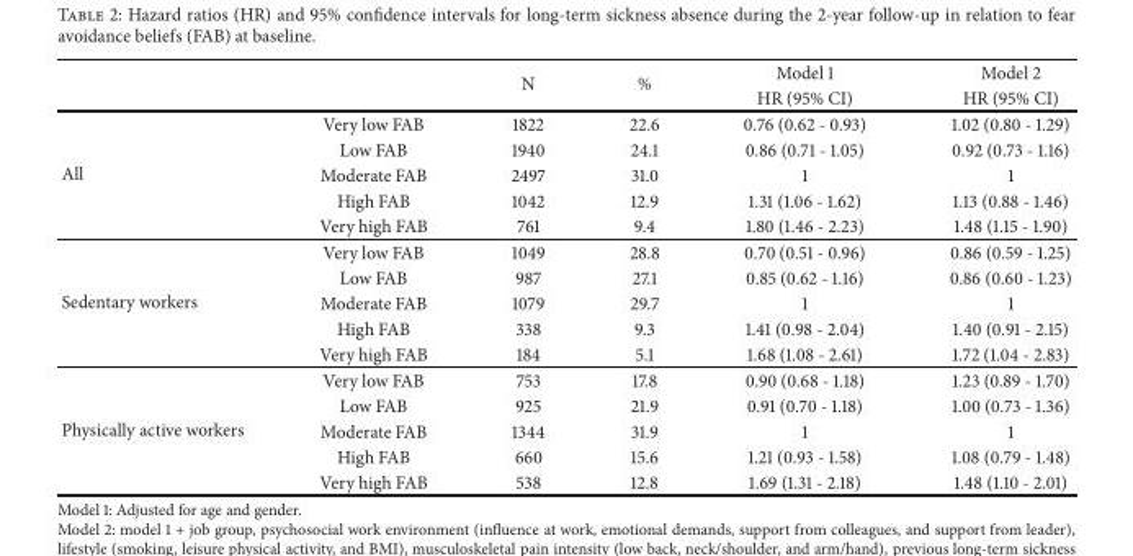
<table><thead><tr><td rowspan="2"></td><td rowspan="2"></td><td rowspan="2">N</td><td rowspan="2">%</td><td rowspan="2">Model 1 HR (95% CI)</td><td rowspan="2">Model 2 HR (95% CI)</td></tr><tr></tr></thead><tbody><tr><td rowspan="5">All</td><td>Very low FAB</td><td>1822</td><td>22.6</td><td>0.76 (0.62 - 0.93)</td><td>1.02 (0.80 - 1.29)</td></tr><tr><td>Low FAB</td><td>1940</td><td>24.1</td><td>0.86 (0.71 - 1.05)</td><td>0.92 (0.73 - 1.16)</td></tr><tr><td>Moderate FAB</td><td>2497</td><td>31.0</td><td>1</td><td>1</td></tr><tr><td>High FAB</td><td>1042</td><td>12.9</td><td>1.31 (1.06 - 1.62)</td><td>1.13 (0.88 - 1.46)</td></tr><tr><td>Very high FAB</td><td>761</td><td>9.4</td><td>1.80 (1.46 - 2.23)</td><td>1.48 (1.15 - 1.90)</td></tr><tr><td rowspan="5">Sedentary workers</td><td>Very low FAB</td><td>1049</td><td>28.8</td><td>0.70 (0.51 - 0.96)</td><td>0.86 (0.59 - 1.25)</td></tr><tr><td>Low FAB</td><td>987</td><td>27.1</td><td>0.85 (0.62 - 1.16)</td><td>0.86 (0.60 - 1.23)</td></tr><tr><td>Moderate FAB</td><td>1079</td><td>29.7</td><td>1</td><td>1</td></tr><tr><td>High FAB</td><td>338</td><td>9.3</td><td>1.41 (0.98 - 2.04)</td><td>1.40 (0.91 - 2.15)</td></tr><tr><td>Very high FAB</td><td>184</td><td>5.1</td><td>1.68 (1.08 - 2.61)</td><td>1.72 (1.04 - 2.83)</td></tr><tr><td rowspan="5">Physically active workers</td><td>Very low FAB</td><td>753</td><td>17.8</td><td>0.90 (0.68 - 1.18)</td><td>1.23 (0.89 - 1.70)</td></tr><tr><td>Low FAB</td><td>925</td><td>21.9</td><td>0.91 (0.70 - 1.18)</td><td>1.00 (0.73 - 1.36)</td></tr><tr><td>Moderate FAB</td><td>1344</td><td>31.9</td><td>1</td><td>1</td></tr><tr><td>High FAB</td><td>660</td><td>15.6</td><td>1.21 (0.93 - 1.58)</td><td>1.08 (0.79 - 1.48)</td></tr><tr><td>Very high FAB</td><td>538</td><td>12.8</td><td>1.69 (1.31 - 2.18)</td><td>1.48 (1.10 - 2.01)</td></tr></tbody></table>